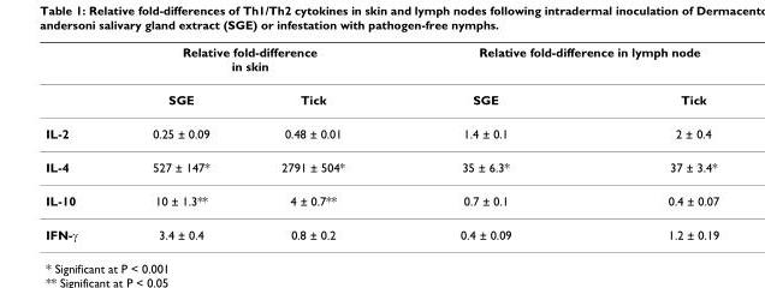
<table><thead><tr><td rowspan="2"></td><td colspan="2">Relative fold-difference in skin</td><td colspan="2">Relative fold-difference in lymph node</td></tr><tr><td>SGE</td><td>Tick</td><td>SGE</td><td>Tick</td></tr></thead><tbody><tr><td>IL-2</td><td>0.25 ± 0.09</td><td>0.48 ± 0.01</td><td>1.4 ± 0.1</td><td>2 ± 0.4</td></tr><tr><td>IL-4</td><td>527 ± 147*</td><td>2791 ± 504*</td><td>35 ± 6.3*</td><td>37 ± 3.4*</td></tr><tr><td>IL-10</td><td>10 ± 1.3**</td><td>4 ± 0.7**</td><td>0.7 ± 0.1</td><td>0.4 ± 0.07</td></tr><tr><td>IFN-γ</td><td>3.4 ± 0.4</td><td>0.8 ± 0.2</td><td>0.4 ± 0.09</td><td>1.2 ± 0.19</td></tr></tbody></table>